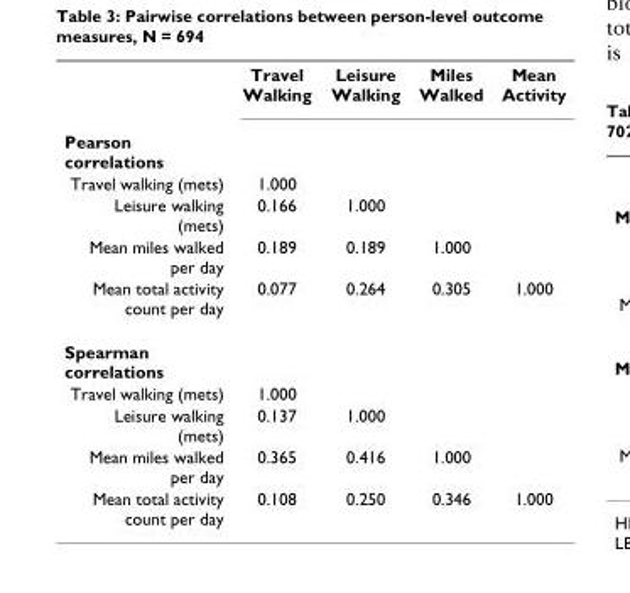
<table><thead><tr><td></td><td>Travel Walking</td><td>Leisure Walking</td><td>Miles Walked</td><td>Mean Activity</td></tr></thead><tbody><tr><td colspan="5">Pearson correlations</td></tr><tr><td>Travel walking (mets)</td><td>1.000</td><td></td><td></td><td></td></tr><tr><td>Leisure walking (mets)</td><td>0.166</td><td>1.000</td><td></td><td></td></tr><tr><td>Mean miles walked per day</td><td>0.189</td><td>0.189</td><td>1.000</td><td></td></tr><tr><td>Mean total activity count per day</td><td>0.077</td><td>0.264</td><td>0.305</td><td>1.000</td></tr><tr><td colspan="5">Spearman correlations</td></tr><tr><td>Travel walking (mets)</td><td>1.000</td><td></td><td></td><td></td></tr><tr><td>Leisure walking (mets)</td><td>0.137</td><td>1.000</td><td></td><td></td></tr><tr><td>Mean miles walked per day</td><td>0.365</td><td>0.416</td><td>1.000</td><td></td></tr><tr><td>Mean total activity count per day</td><td>0.108</td><td>0.250</td><td>0.346</td><td>1.000</td></tr></tbody></table>